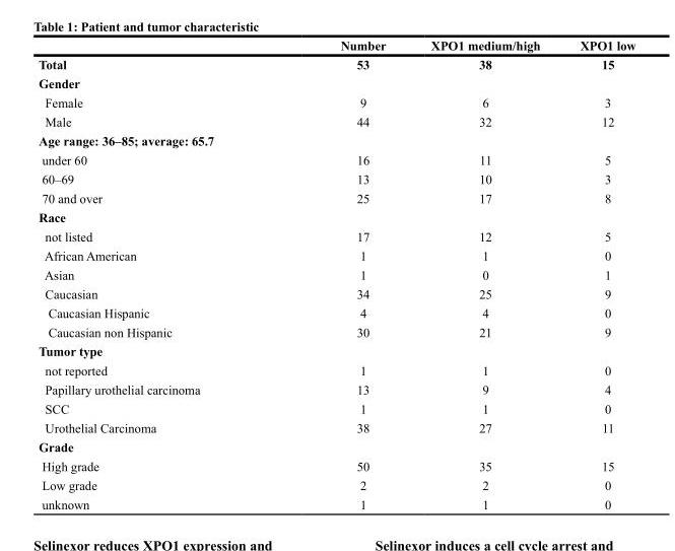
<table><thead><tr><td></td><td>Number</td><td>XPO1 medium/high</td><td>XPO1 low</td></tr></thead><tbody><tr><td>Total</td><td>53</td><td>38</td><td>15</td></tr><tr><td colspan="4">Gender</td></tr><tr><td>Female</td><td>9</td><td>6</td><td>3</td></tr><tr><td>Male</td><td>44</td><td>32</td><td>12</td></tr><tr><td colspan="4">Age range: 36–85; average: 65.7</td></tr><tr><td>under 60</td><td>16</td><td>11</td><td>5</td></tr><tr><td>60–69</td><td>13</td><td>10</td><td>3</td></tr><tr><td>70 and over</td><td>25</td><td>17</td><td>8</td></tr><tr><td colspan="4">Race</td></tr><tr><td>not listed</td><td>17</td><td>12</td><td>5</td></tr><tr><td>African American</td><td>1</td><td>1</td><td>0</td></tr><tr><td>Asian</td><td>1</td><td>0</td><td>1</td></tr><tr><td>Caucasian</td><td>34</td><td>25</td><td>9</td></tr><tr><td>Caucasian Hispanic</td><td>4</td><td>4</td><td>0</td></tr><tr><td>Caucasian non Hispanic</td><td>30</td><td>21</td><td>9</td></tr><tr><td colspan="4">Tumor type</td></tr><tr><td>not reported</td><td>1</td><td>1</td><td>0</td></tr><tr><td>Papillary urothelial carcinoma</td><td>13</td><td>9</td><td>4</td></tr><tr><td>SCC</td><td>1</td><td>1</td><td>0</td></tr><tr><td>Urothelial Carcinoma</td><td>38</td><td>27</td><td>11</td></tr><tr><td colspan="4">Grade</td></tr><tr><td>High grade</td><td>50</td><td>35</td><td>15</td></tr><tr><td>Low grade</td><td>2</td><td>2</td><td>0</td></tr><tr><td>unknown</td><td>1</td><td>1</td><td>0</td></tr></tbody></table>